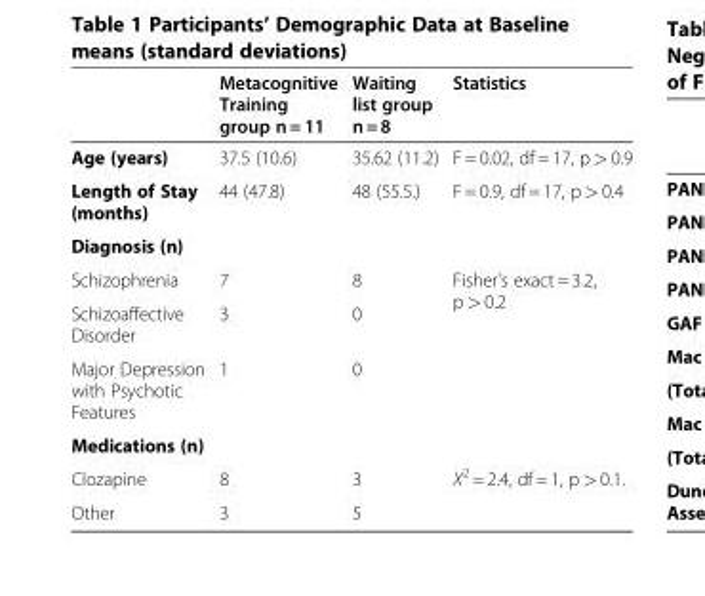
<table><thead><tr><td></td><td>Metacognitive Training group n = 11</td><td>Waiting list group n = 8</td><td>Statistics</td></tr></thead><tbody><tr><td>Age (years)</td><td>37.5 (10.6)</td><td>35.62 (11.2)</td><td>F = 0.02, df = 17, p &gt; 0.9</td></tr><tr><td>Length of Stay (months)</td><td>44 (47.8)</td><td>48 (55.5.)</td><td>F = 0.9, df = 17, p &gt; 0.4</td></tr><tr><td colspan="4">Diagnosis (n)</td></tr><tr><td>Schizophrenia</td><td>7</td><td>8</td><td rowspan="3">Fisher&#x27;s exact = 3.2, p &gt; 0.2</td></tr><tr><td>Schizoaffective Disorder</td><td>3</td><td>0</td></tr><tr><td>Major Depression with Psychotic Features</td><td>1</td><td>0</td></tr><tr><td colspan="4">Medications (n)</td></tr><tr><td>Clozapine</td><td>8</td><td>3</td><td rowspan="2">X<sup>2</sup> = 2.4, df = 1, p &gt; 0.1.</td></tr><tr><td>Other</td><td>3</td><td>5</td></tr></tbody></table>